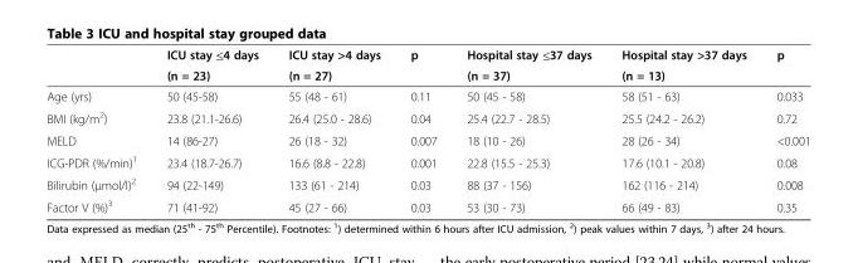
<table><thead><tr><td rowspan="2"></td><td rowspan="2">ICU stay ≤4 days (n = 23)</td><td rowspan="2">ICU stay &gt;4 days (n = 27)</td><td rowspan="2">p</td><td rowspan="2">Hospital stay ≤37 days (n = 37)</td><td rowspan="2">Hospital stay &gt;37 days (n = 13)</td><td rowspan="2">p</td></tr><tr></tr></thead><tbody><tr><td>Age (yrs)</td><td>50 (45-58)</td><td>55 (48 - 61)</td><td>0.11</td><td>50 (45 - 58)</td><td>58 (51 - 63)</td><td>0.033</td></tr><tr><td>BMI (kg/m<sup>2</sup>)</td><td>23.8 (21.1-26.6)</td><td>26.4 (25.0 - 28.6)</td><td>0.04</td><td>25.4 (22.7 - 28.5)</td><td>25.5 (24.2 - 26.2)</td><td>0.72</td></tr><tr><td>MELD</td><td>14 (86-27)</td><td>26 (18 - 32)</td><td>0.007</td><td>18 (10 - 26)</td><td>28 (26 - 34)</td><td>&lt;0.001</td></tr><tr><td>ICG-PDR (%/min)<sup>1</sup></td><td>23.4 (18.7-26.7)</td><td>16.6 (8.8 - 22.8)</td><td>0.001</td><td>22.8 (15.5 - 25.3)</td><td>17.6 (10.1 - 20.8)</td><td>0.08</td></tr><tr><td>Bilirubin (μmol/l)<sup>2</sup></td><td>94 (22-149)</td><td>133 (61 - 214)</td><td>0.03</td><td>88 (37 - 156)</td><td>162 (116 - 214)</td><td>0.008</td></tr><tr><td>Factor V (%)<sup>3</sup></td><td>71 (41-92)</td><td>45 (27 - 66)</td><td>0.03</td><td>53 (30 - 73)</td><td>66 (49 - 83)</td><td>0.35</td></tr></tbody></table>